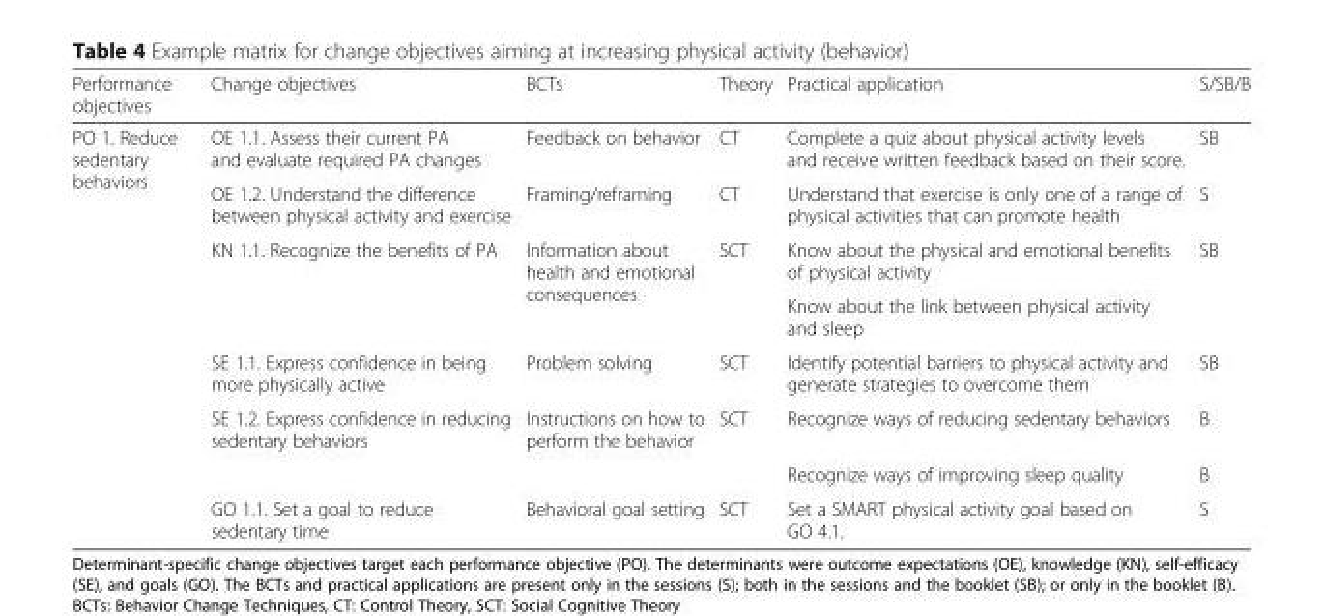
<table><thead><tr><td>Performance objectives</td><td>Change objectives</td><td>BCTs</td><td>Theory</td><td>Practical application</td><td>S/SB/B</td></tr></thead><tbody><tr><td rowspan="8">PO 1. Reduce sedentary behaviors</td><td>OE 1.1. Assess their current PA and evaluate required PA changes</td><td>Feedback on behavior</td><td>CT</td><td>Complete a quiz about physical activity levels and receive written feedback based on their score.</td><td>SB</td></tr><tr><td>OE 1.2. Understand the difference between physical activity and exercise</td><td>Framing/reframing</td><td>CT</td><td>Understand that exercise is only one of a range of physical activities that can promote health</td><td>S</td></tr><tr><td rowspan="2">KN 1.1. Recognize the benefits of PA</td><td rowspan="2">Information about health and emotional consequences</td><td rowspan="2">SCT</td><td>Know about the physical and emotional benefits of physical activity</td><td>SB</td></tr><tr><td>Know about the link between physical activity and sleep</td><td></td></tr><tr><td>SE 1.1. Express confidence in being more physically active</td><td>Problem solving</td><td>SCT</td><td>Identify potential barriers to physical activity and generate strategies to overcome them</td><td>SB</td></tr><tr><td>SE 1.2. Express confidence in reducing sedentary behaviors</td><td>Instructions on how to perform the behavior</td><td>SCT</td><td>Recognize ways of reducing sedentary behaviors</td><td>B</td></tr><tr><td></td><td></td><td></td><td>Recognize ways of improving sleep quality</td><td>B</td></tr><tr><td>GO 1.1. Set a goal to reduce sedentary time</td><td>Behavioral goal setting</td><td>SCT</td><td>Set a SMART physical activity goal based on GO 4.1.</td><td>S</td></tr></tbody></table>